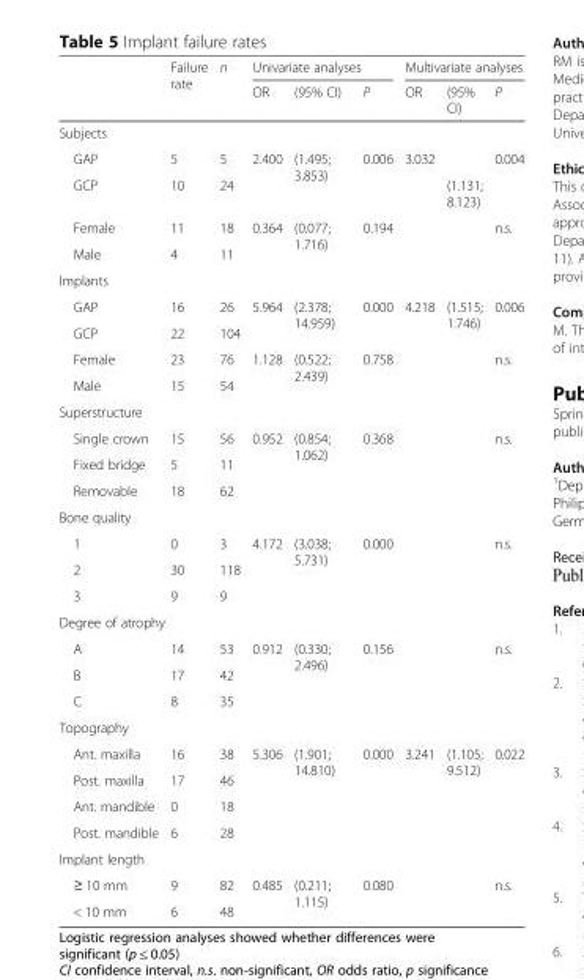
<table><thead><tr><td rowspan="2"></td><td rowspan="2">Failure rate</td><td rowspan="2">n</td><td colspan="3">Univariate analyses</td><td colspan="3">Multivariate analyses</td></tr><tr><td>OR</td><td>(95% CI)</td><td>P</td><td>OR</td><td>(95% CI)</td><td>P</td></tr></thead><tbody><tr><td colspan="9">Subjects</td></tr><tr><td>GAP</td><td>5</td><td>5</td><td rowspan="2">2.400</td><td rowspan="2">(1.495; 3.853)</td><td rowspan="2">0.006</td><td rowspan="2">3.032</td><td></td><td rowspan="2">0.004</td></tr><tr><td>GCP</td><td>10</td><td>24</td><td>(1.131; 8.123)</td></tr><tr><td>Female</td><td>11</td><td>18</td><td rowspan="2">0.364</td><td rowspan="2">(0.077; 1.716)</td><td rowspan="2">0.194</td><td></td><td></td><td rowspan="2">n.s.</td></tr><tr><td>Male</td><td>4</td><td>11</td><td></td><td></td></tr><tr><td colspan="9">Implants</td></tr><tr><td>GAP</td><td>16</td><td>26</td><td rowspan="2">5.964</td><td rowspan="2">(2.378; 14.959)</td><td rowspan="2">0.000</td><td rowspan="2">4.218</td><td rowspan="2">(1.515; 1.746)</td><td rowspan="2">0.006</td></tr><tr><td>GCP</td><td>22</td><td>104</td></tr><tr><td>Female</td><td>23</td><td>76</td><td rowspan="2">1.128</td><td rowspan="2">(0.522; 2.439)</td><td rowspan="2">0.758</td><td rowspan="2"></td><td rowspan="2"></td><td rowspan="2">n.s.</td></tr><tr><td>Male</td><td>15</td><td>54</td></tr><tr><td colspan="9">Superstructure</td></tr><tr><td>Single crown</td><td>15</td><td>56</td><td rowspan="3">0.952</td><td rowspan="3">(0.854; 1.062)</td><td rowspan="3">0.368</td><td></td><td></td><td rowspan="3">n.s.</td></tr><tr><td>Fixed bridge</td><td>5</td><td>11</td><td></td><td></td></tr><tr><td>Removable</td><td>18</td><td>62</td><td></td><td></td></tr><tr><td colspan="9">Bone quality</td></tr><tr><td>1</td><td>0</td><td>3</td><td rowspan="3">4.172</td><td rowspan="3">(3.038; 5.731)</td><td rowspan="3">0.000</td><td rowspan="3"></td><td rowspan="3"></td><td rowspan="3">n.s.</td></tr><tr><td>2</td><td>30</td><td>118</td></tr><tr><td>3</td><td>9</td><td>9</td></tr><tr><td colspan="9">Degree of atrophy</td></tr><tr><td>A</td><td>14</td><td>53</td><td rowspan="3">0.912</td><td rowspan="3">(0.330; 2.496)</td><td rowspan="3">0.156</td><td></td><td></td><td rowspan="3">n.s.</td></tr><tr><td>B</td><td>17</td><td>42</td><td></td><td></td></tr><tr><td>C</td><td>8</td><td>35</td><td></td><td></td></tr><tr><td colspan="9">Topography</td></tr><tr><td>Ant. maxilla</td><td>16</td><td>38</td><td rowspan="4">5.306</td><td rowspan="4">(1.901; 14.810)</td><td rowspan="4">0.000</td><td rowspan="4">3.241</td><td rowspan="4">(1.105; 9.512)</td><td rowspan="4">0.022</td></tr><tr><td>Post. maxilla</td><td>17</td><td>46</td></tr><tr><td>Ant. mandible</td><td>0</td><td>18</td></tr><tr><td>Post. mandible</td><td>6</td><td>28</td></tr><tr><td colspan="9">Implant length</td></tr><tr><td>≥ 10 mm</td><td>9</td><td>82</td><td rowspan="2">0.485</td><td rowspan="2">(0.211; 1.115)</td><td rowspan="2">0.080</td><td rowspan="2"></td><td rowspan="2"></td><td rowspan="2">n.s.</td></tr><tr><td>&lt; 10 mm</td><td>6</td><td>48</td></tr></tbody></table>